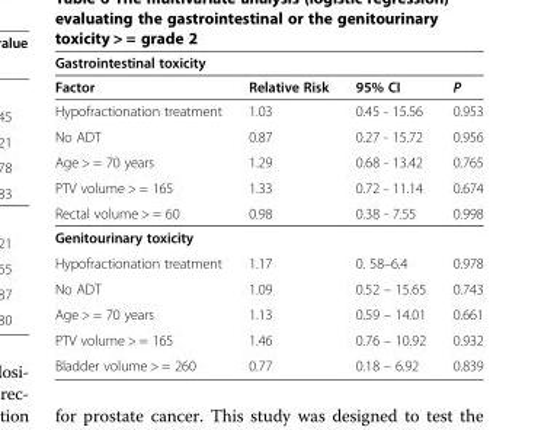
<table><thead><tr><td rowspan="2">Gastrointestinal toxicity Factor</td><td rowspan="2">Relative Risk</td><td rowspan="2">95% CI</td><td rowspan="2">P</td></tr><tr></tr></thead><tbody><tr><td>Hypofractionation treatment</td><td>1.03</td><td>0.45 - 15.56</td><td>0.953</td></tr><tr><td>No ADT</td><td>0.87</td><td>0.27 - 15.72</td><td>0.956</td></tr><tr><td>Age &gt; = 70 years</td><td>1.29</td><td>0.68 - 13.42</td><td>0.765</td></tr><tr><td>PTV volume &gt; = 165</td><td>1.33</td><td>0.72 - 11.14</td><td>0.674</td></tr><tr><td>Rectal volume &gt; = 60</td><td>0.98</td><td>0.38 - 7.55</td><td>0.998</td></tr><tr><td colspan="4">Genitourinary toxicity</td></tr><tr><td>Hypofractionation treatment</td><td>1.17</td><td>0. 58–6.4</td><td>0.978</td></tr><tr><td>No ADT</td><td>1.09</td><td>0.52 – 15.65</td><td>0.743</td></tr><tr><td>Age &gt; = 70 years</td><td>1.13</td><td>0.59 – 14.01</td><td>0.661</td></tr><tr><td>PTV volume &gt; = 165</td><td>1.46</td><td>0.76 – 10.92</td><td>0.932</td></tr><tr><td>Bladder volume &gt; = 260</td><td>0.77</td><td>0.18 – 6.92</td><td>0.839</td></tr></tbody></table>